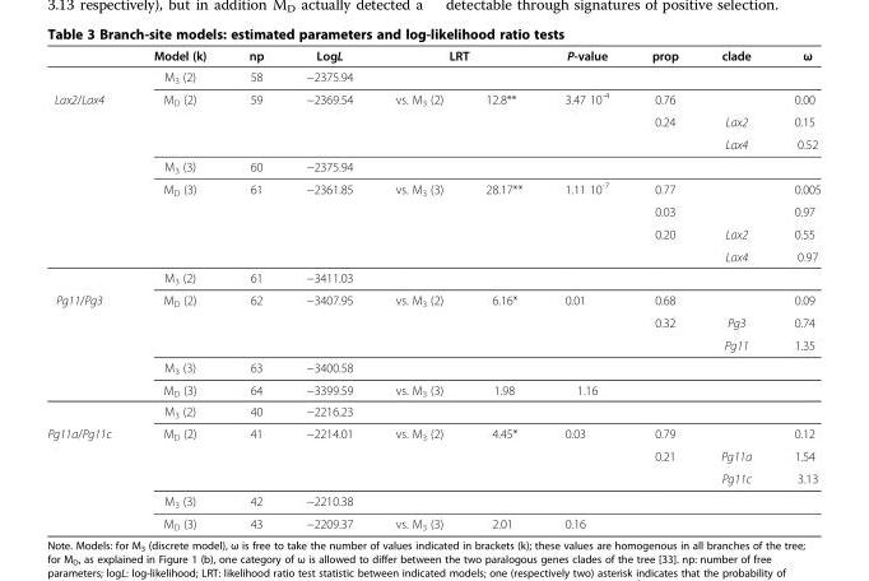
<table><thead><tr><td rowspan="2"></td><td rowspan="2">Model (k) M<sub>3</sub> (2)</td><td rowspan="2">np 58</td><td rowspan="2">LogL −2375.94</td><td colspan="2">LRT</td><td rowspan="2">P-value</td><td rowspan="2">prop</td><td rowspan="2">clade</td><td rowspan="2">ω</td></tr><tr><td></td><td></td></tr></thead><tbody><tr><td rowspan="9">Lax2/Lax4</td><td>M<sub>D</sub> (2)</td><td>59</td><td>−2369.54</td><td>vs. M<sub>3</sub> (2)</td><td>12.8**</td><td>3.47 10<sup>-4</sup></td><td>0.76</td><td></td><td>0.00</td></tr><tr><td></td><td></td><td></td><td></td><td></td><td></td><td>0.24</td><td>Lax2</td><td>0.15</td></tr><tr><td></td><td></td><td></td><td></td><td></td><td></td><td></td><td>Lax4</td><td>0.52</td></tr><tr><td>M<sub>3</sub> (3)</td><td>60</td><td>−2375.94</td><td></td><td></td><td></td><td></td><td></td><td></td></tr><tr><td>M<sub>D</sub> (3)</td><td>61</td><td>−2361.85</td><td>vs. M<sub>3</sub> (3)</td><td>28.17**</td><td>1.11 10<sup>-7</sup></td><td>0.77</td><td></td><td>0.005</td></tr><tr><td></td><td></td><td></td><td></td><td></td><td></td><td>0.03</td><td></td><td>0.97</td></tr><tr><td></td><td></td><td></td><td></td><td></td><td></td><td>0.20</td><td>Lax2</td><td>0.55</td></tr><tr><td></td><td></td><td></td><td></td><td></td><td></td><td></td><td>Lax4</td><td>0.97</td></tr><tr><td>M<sub>3</sub> (2)</td><td>61</td><td>−3411.03</td><td></td><td></td><td></td><td></td><td></td><td></td></tr><tr><td rowspan="6">Pg11/Pg3</td><td>M<sub>D</sub> (2)</td><td>62</td><td>−3407.95</td><td>vs. M<sub>3</sub> (2)</td><td>6.16*</td><td>0.01</td><td>0.68</td><td></td><td>0.09</td></tr><tr><td></td><td></td><td></td><td></td><td></td><td></td><td>0.32</td><td>Pg3</td><td>0.74</td></tr><tr><td></td><td></td><td></td><td></td><td></td><td></td><td></td><td>Pg11</td><td>1.35</td></tr><tr><td>M<sub>3</sub> (3)</td><td>63</td><td>−3400.58</td><td></td><td></td><td></td><td></td><td></td><td></td></tr><tr><td>M<sub>D</sub> (3)</td><td>64</td><td>−3399.59</td><td>vs. M<sub>3</sub> (3)</td><td>1.98</td><td>1.16</td><td></td><td></td><td></td></tr><tr><td>M<sub>3</sub> (2)</td><td>40</td><td>−2216.23</td><td></td><td></td><td></td><td></td><td></td><td></td></tr><tr><td rowspan="5">Pg11a/Pg11c</td><td>M<sub>D</sub> (2)</td><td>41</td><td>−2214.01</td><td>vs. M<sub>3</sub> (2)</td><td>4.45*</td><td>0.03</td><td>0.79</td><td></td><td>0.12</td></tr><tr><td></td><td></td><td></td><td></td><td></td><td></td><td>0.21</td><td>Pg11a</td><td>1.54</td></tr><tr><td></td><td></td><td></td><td></td><td></td><td></td><td></td><td>Pg11c</td><td>3.13</td></tr><tr><td>M<sub>3</sub> (3)</td><td>42</td><td>−2210.38</td><td></td><td></td><td></td><td></td><td></td><td></td></tr><tr><td>M<sub>D</sub> (3)</td><td>43</td><td>−2209.37</td><td>vs. M<sub>3</sub> (3)</td><td>2.01</td><td>0.16</td><td></td><td></td><td></td></tr></tbody></table>